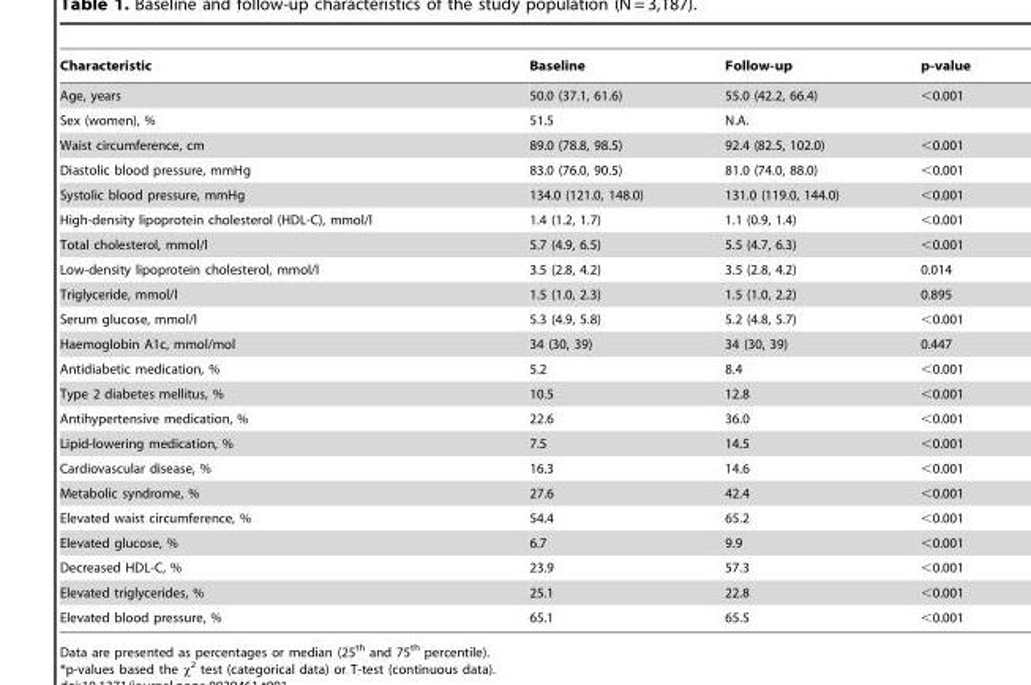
<table><thead><tr><td>Characteristic</td><td>Baseline</td><td>Follow-up</td><td>p-value</td></tr></thead><tbody><tr><td>Age, years</td><td>50.0 (37.1, 61.6)</td><td>55.0 (42.2, 66.4)</td><td>&lt;0.001</td></tr><tr><td>Sex (women), %</td><td>51.5</td><td>N.A.</td><td></td></tr><tr><td>Waist circumference, cm</td><td>89.0 (78.8, 98.5)</td><td>92.4 (82.5, 102.0)</td><td>&lt;0.001</td></tr><tr><td>Diastolic blood pressure, mmHg</td><td>83.0 (76.0, 90.5)</td><td>81.0 (74.0, 88.0)</td><td>&lt;0.001</td></tr><tr><td>Systolic blood pressure, mmHg</td><td>134.0 (121.0, 148.0)</td><td>131.0 (119.0, 144.0)</td><td>&lt;0.001</td></tr><tr><td>High-density lipoprotein cholesterol (HDL-C), mmol/l</td><td>1.4 (1.2, 1.7)</td><td>1.1 (0.9, 1.4)</td><td>&lt;0.001</td></tr><tr><td>Total cholesterol, mmol/l</td><td>5.7 (4.9, 6.5)</td><td>5.5 (4.7, 6.3)</td><td>&lt;0.001</td></tr><tr><td>Low-density lipoprotein cholesterol, mmol/l</td><td>3.5 (2.8, 4.2)</td><td>3.5 (2.8, 4.2)</td><td>0.014</td></tr><tr><td>Triglyceride, mmol/l</td><td>1.5 (1.0, 2.3)</td><td>1.5 (1.0, 2.2)</td><td>0.895</td></tr><tr><td>Serum glucose, mmol/l</td><td>5.3 (4.9, 5.8)</td><td>5.2 (4.8, 5.7)</td><td>&lt;0.001</td></tr><tr><td>Haemoglobin A1c, mmol/mol</td><td>34 (30, 39)</td><td>34 (30, 39)</td><td>0.447</td></tr><tr><td>Antidiabetic medication, %</td><td>5.2</td><td>8.4</td><td>&lt;0.001</td></tr><tr><td>Type 2 diabetes mellitus, %</td><td>10.5</td><td>12.8</td><td>&lt;0.001</td></tr><tr><td>Antihypertensive medication, %</td><td>22.6</td><td>36.0</td><td>&lt;0.001</td></tr><tr><td>Lipid-lowering medication, %</td><td>7.5</td><td>14.5</td><td>&lt;0.001</td></tr><tr><td>Cardiovascular disease, %</td><td>16.3</td><td>14.6</td><td>&lt;0.001</td></tr><tr><td>Metabolic syndrome, %</td><td>27.6</td><td>42.4</td><td>&lt;0.001</td></tr><tr><td>Elevated waist circumference, %</td><td>54.4</td><td>65.2</td><td>&lt;0.001</td></tr><tr><td>Elevated glucose, %</td><td>6.7</td><td>9.9</td><td>&lt;0.001</td></tr><tr><td>Decreased HDL-C, %</td><td>23.9</td><td>57.3</td><td>&lt;0.001</td></tr><tr><td>Elevated triglycerides, %</td><td>25.1</td><td>22.8</td><td>&lt;0.001</td></tr><tr><td>Elevated blood pressure, %</td><td>65.1</td><td>65.5</td><td>&lt;0.001</td></tr></tbody></table>